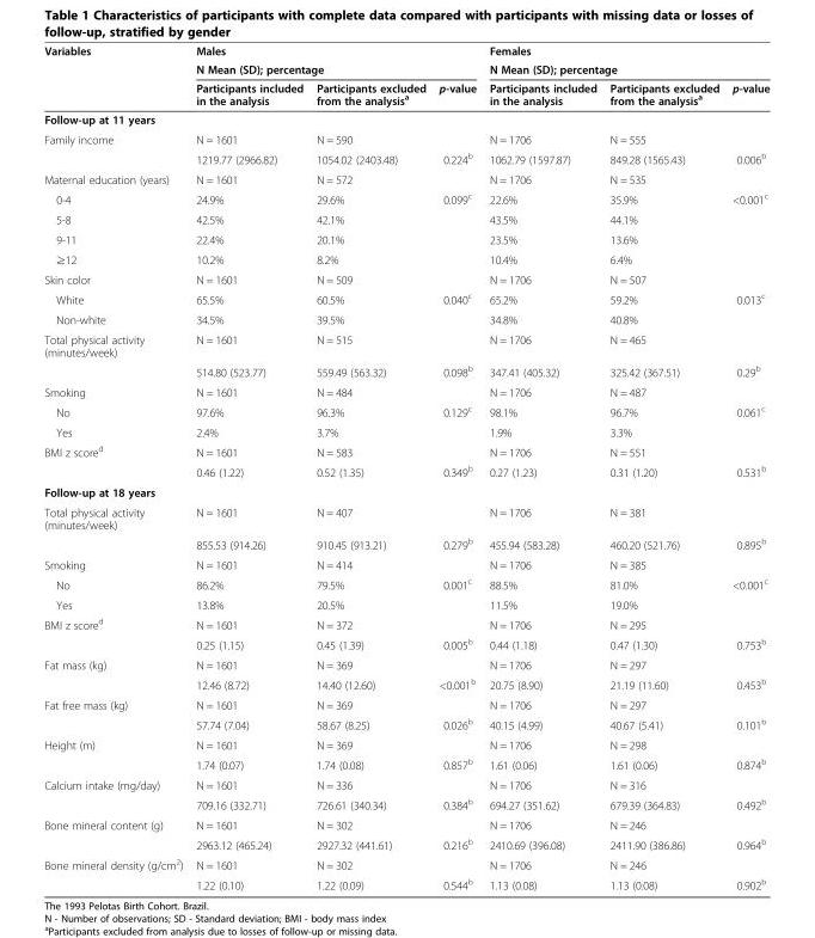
<table><thead><tr><td rowspan="3">Variables</td><td rowspan="2" colspan="3">Males N Mean (SD); percentage</td><td rowspan="2" colspan="3">Females N Mean (SD); percentage</td></tr><tr></tr><tr><td>Participants included in the analysis</td><td>Participants excluded from the analysis<sup>a</sup></td><td>p-value</td><td>Participants included in the analysis</td><td>Participants excluded from the analysis<sup>a</sup></td><td>p-value</td></tr></thead><tbody><tr><td colspan="7">Follow-up at 11 years</td></tr><tr><td rowspan="2">Family income</td><td>N = 1601</td><td>N = 590</td><td></td><td>N = 1706</td><td>N = 555</td><td></td></tr><tr><td>1219.77 (2966.82)</td><td>1054.02 (2403.48)</td><td>0.224<sup>b</sup></td><td>1062.79 (1597.87)</td><td>849.28 (1565.43)</td><td>0.006<sup>b</sup></td></tr><tr><td>Maternal education (years)</td><td>N = 1601</td><td>N = 572</td><td></td><td>N = 1706</td><td>N = 535</td><td></td></tr><tr><td>0-4</td><td>24.9%</td><td>29.6%</td><td>0.099<sup>c</sup></td><td>22.6%</td><td>35.9%</td><td>&lt;0.001<sup>c</sup></td></tr><tr><td>5-8</td><td>42.5%</td><td>42.1%</td><td></td><td>43.5%</td><td>44.1%</td><td></td></tr><tr><td>9-11</td><td>22.4%</td><td>20.1%</td><td></td><td>23.5%</td><td>13.6%</td><td></td></tr><tr><td>≥12</td><td>10.2%</td><td>8.2%</td><td></td><td>10.4%</td><td>6.4%</td><td></td></tr><tr><td>Skin color</td><td>N = 1601</td><td>N = 509</td><td></td><td>N = 1706</td><td>N = 507</td><td></td></tr><tr><td>White</td><td>65.5%</td><td>60.5%</td><td>0.040<sup>c</sup></td><td>65.2%</td><td>59.2%</td><td>0.013<sup>c</sup></td></tr><tr><td>Non-white</td><td>34.5%</td><td>39.5%</td><td></td><td>34.8%</td><td>40.8%</td><td></td></tr><tr><td rowspan="2">Total physical activity (minutes/week)</td><td>N = 1601</td><td>N = 515</td><td></td><td>N = 1706</td><td>N = 465</td><td></td></tr><tr><td>514.80 (523.77)</td><td>559.49 (563.32)</td><td>0.098<sup>b</sup></td><td>347.41 (405.32)</td><td>325.42 (367.51)</td><td>0.29<sup>b</sup></td></tr><tr><td>Smoking</td><td>N = 1601</td><td>N = 484</td><td></td><td>N = 1706</td><td>N = 487</td><td></td></tr><tr><td>No</td><td>97.6%</td><td>96.3%</td><td>0.129<sup>c</sup></td><td>98.1%</td><td>96.7%</td><td>0.061<sup>c</sup></td></tr><tr><td>Yes</td><td>2.4%</td><td>3.7%</td><td></td><td>1.9%</td><td>3.3%</td><td></td></tr><tr><td rowspan="2">BMI z score<sup>d</sup></td><td>N = 1601</td><td>N = 583</td><td></td><td>N = 1706</td><td>N = 551</td><td></td></tr><tr><td>0.46 (1.22)</td><td>0.52 (1.35)</td><td>0.349<sup>b</sup></td><td>0.27 (1.23)</td><td>0.31 (1.20)</td><td>0.531<sup>b</sup></td></tr><tr><td colspan="7">Follow-up at 18 years</td></tr><tr><td rowspan="2">Total physical activity (minutes/week)</td><td>N = 1601</td><td>N = 407</td><td></td><td>N = 1706</td><td>N = 381</td><td></td></tr><tr><td>855.53 (914.26)</td><td>910.45 (913.21)</td><td>0.279<sup>b</sup></td><td>455.94 (583.28)</td><td>460.20 (521.76)</td><td>0.895<sup>b</sup></td></tr><tr><td>Smoking</td><td>N = 1601</td><td>N = 414</td><td></td><td>N = 1706</td><td>N = 385</td><td></td></tr><tr><td>No</td><td>86.2%</td><td>79.5%</td><td>0.001<sup>c</sup></td><td>88.5%</td><td>81.0%</td><td>&lt;0.001<sup>c</sup></td></tr><tr><td>Yes</td><td>13.8%</td><td>20.5%</td><td></td><td>11.5%</td><td>19.0%</td><td></td></tr><tr><td rowspan="2">BMI z score<sup>d</sup></td><td>N = 1601</td><td>N = 372</td><td></td><td>N = 1706</td><td>N = 295</td><td></td></tr><tr><td>0.25 (1.15)</td><td>0.45 (1.39)</td><td>0.005<sup>b</sup></td><td>0.44 (1.18)</td><td>0.47 (1.30)</td><td>0.753<sup>b</sup></td></tr><tr><td rowspan="2">Fat mass (kg)</td><td>N = 1601</td><td>N = 369</td><td></td><td>N = 1706</td><td>N = 297</td><td></td></tr><tr><td>12.46 (8.72)</td><td>14.40 (12.60)</td><td>&lt;0.001<sup>b</sup></td><td>20.75 (8.90)</td><td>21.19 (11.60)</td><td>0.453<sup>b</sup></td></tr><tr><td rowspan="2">Fat free mass (kg)</td><td>N = 1601</td><td>N = 369</td><td></td><td>N = 1706</td><td>N = 297</td><td></td></tr><tr><td>57.74 (7.04)</td><td>58.67 (8.25)</td><td>0.026<sup>b</sup></td><td>40.15 (4.99)</td><td>40.67 (5.41)</td><td>0.101<sup>b</sup></td></tr><tr><td rowspan="2">Height (m)</td><td>N = 1601</td><td>N = 369</td><td></td><td>N = 1706</td><td>N = 298</td><td></td></tr><tr><td>1.74 (0.07)</td><td>1.74 (0.08)</td><td>0.857<sup>b</sup></td><td>1.61 (0.06)</td><td>1.61 (0.06)</td><td>0.874<sup>b</sup></td></tr><tr><td rowspan="2">Calcium intake (mg/day)</td><td>N = 1601</td><td>N = 336</td><td></td><td>N = 1706</td><td>N = 316</td><td></td></tr><tr><td>709.16 (332.71)</td><td>726.61 (340.34)</td><td>0.384<sup>b</sup></td><td>694.27 (351.62)</td><td>679.39 (364.83)</td><td>0.492<sup>b</sup></td></tr><tr><td rowspan="2">Bone mineral content (g)</td><td>N = 1601</td><td>N = 302</td><td></td><td>N = 1706</td><td>N = 246</td><td></td></tr><tr><td>2963.12 (465.24)</td><td>2927.32 (441.61)</td><td>0.216<sup>b</sup></td><td>2410.69 (396.08)</td><td>2411.90 (386.86)</td><td>0.964<sup>b</sup></td></tr><tr><td rowspan="2">Bone mineral density (g/cm<sup>2</sup>)</td><td>N = 1601</td><td>N = 302</td><td></td><td>N = 1706</td><td>N = 246</td><td></td></tr><tr><td>1.22 (0.10)</td><td>1.22 (0.09)</td><td>0.544<sup>b</sup></td><td>1.13 (0.08)</td><td>1.13 (0.08)</td><td>0.902<sup>b</sup></td></tr></tbody></table>